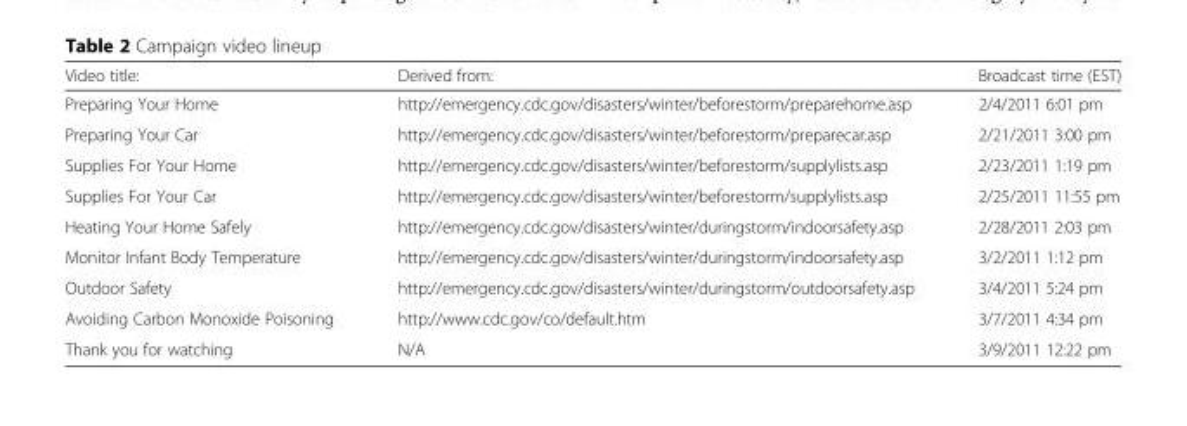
<table><thead><tr><td>Video title:</td><td>Derived from:</td><td>Broadcast time (EST)</td></tr></thead><tbody><tr><td>Preparing Your Home</td><td>http://emergency.cdc.gov/disasters/winter/beforestorm/preparehome.asp</td><td>2/4/2011 6:01 pm</td></tr><tr><td>Preparing Your Car</td><td>http://emergency.cdc.gov/disasters/winter/beforestorm/preparecar.asp</td><td>2/21/2011 3:00 pm</td></tr><tr><td>Supplies For Your Home</td><td>http://emergency.cdc.gov/disasters/winter/beforestorm/supplylists.asp</td><td>2/23/2011 1:19 pm</td></tr><tr><td>Supplies For Your Car</td><td>http://emergency.cdc.gov/disasters/winter/beforestorm/supplylists.asp</td><td>2/25/2011 11:55 pm</td></tr><tr><td>Heating Your Home Safely</td><td>http://emergency.cdc.gov/disasters/winter/duringstorm/indoorsafety.asp</td><td>2/28/2011 2:03 pm</td></tr><tr><td>Monitor Infant Body Temperature</td><td>http://emergency.cdc.gov/disasters/winter/duringstorm/indoorsafety.asp</td><td>3/2/2011 1:12 pm</td></tr><tr><td>Outdoor Safety</td><td>http://emergency.cdc.gov/disasters/winter/duringstorm/outdoorsafety.asp</td><td>3/4/2011 5:24 pm</td></tr><tr><td>Avoiding Carbon Monoxide Poisoning</td><td>http://www.cdc.gov/co/default.htm</td><td>3/7/2011 4:34 pm</td></tr><tr><td>Thank you for watching</td><td>N/A</td><td>3/9/2011 12:22 pm</td></tr></tbody></table>